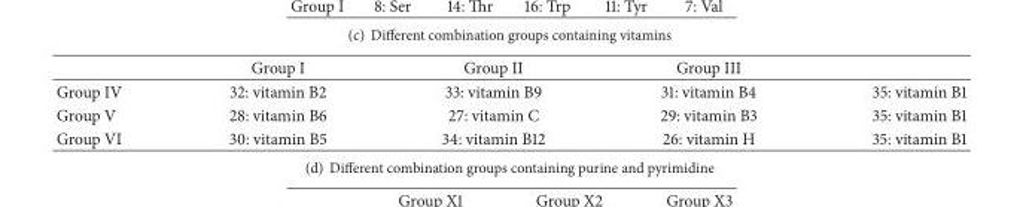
<table><thead><tr><td></td><td>Group I</td><td>Group II</td><td>Group III</td><td></td></tr></thead><tbody><tr><td>Group IV</td><td>32: vitamin B2</td><td>33: vitamin B9</td><td>31: vitamin B4</td><td>35: vitamin B1</td></tr><tr><td>Group V</td><td>28: vitamin B6</td><td>27: vitamin C</td><td>29: vitamin B3</td><td>35: vitamin B1</td></tr><tr><td>Group VI</td><td>30: vitamin B5</td><td>34: vitamin B12</td><td>26: vitamin H</td><td>35: vitamin B1</td></tr></tbody></table>